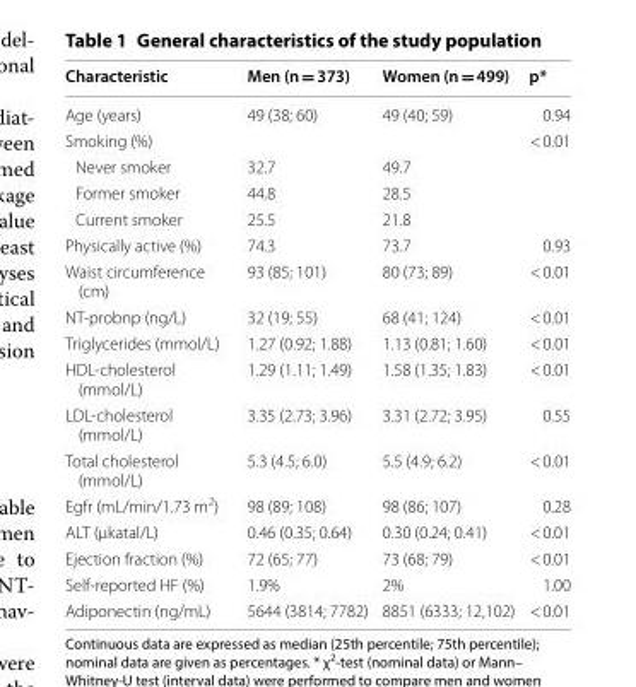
<table><thead><tr><td>Characteristic</td><td>Men (n = 373)</td><td>Women (n = 499)</td><td>p*</td></tr></thead><tbody><tr><td>Age (years)</td><td>49 (38; 60)</td><td>49 (40; 59)</td><td>0.94</td></tr><tr><td>Smoking (%)</td><td></td><td></td><td>&lt; 0.01</td></tr><tr><td>Never smoker</td><td>32.7</td><td>49.7</td><td></td></tr><tr><td>Former smoker</td><td>44.8</td><td>28.5</td><td></td></tr><tr><td>Current smoker</td><td>25.5</td><td>21.8</td><td></td></tr><tr><td>Physically active (%)</td><td>74.3</td><td>73.7</td><td>0.93</td></tr><tr><td>Waist circumference (cm)</td><td>93 (85; 101)</td><td>80 (73; 89)</td><td>&lt; 0.01</td></tr><tr><td>NT-probnp (ng/L)</td><td>32 (19; 55)</td><td>68 (41; 124)</td><td>&lt; 0.01</td></tr><tr><td>Triglycerides (mmol/L)</td><td>1.27 (0.92; 1.88)</td><td>1.13 (0.81; 1.60)</td><td>&lt; 0.01</td></tr><tr><td>HDL-cholesterol (mmol/L)</td><td>1.29 (1.11; 1.49)</td><td>1.58 (1.35; 1.83)</td><td>&lt; 0.01</td></tr><tr><td>LDL-cholesterol (mmol/L)</td><td>3.35 (2.73; 3.96)</td><td>3.31 (2.72; 3.95)</td><td>0.55</td></tr><tr><td>Total cholesterol (mmol/L)</td><td>5.3 (4.5; 6.0)</td><td>5.5 (4.9; 6.2)</td><td>&lt; 0.01</td></tr><tr><td>Egfr (mL/min/1.73 m<sup>2</sup>)</td><td>98 (89; 108)</td><td>98 (86; 107)</td><td>0.28</td></tr><tr><td>ALT (µkatal/L)</td><td>0.46 (0.35; 0.64)</td><td>0.30 (0.24; 0.41)</td><td>&lt; 0.01</td></tr><tr><td>Ejection fraction (%)</td><td>72 (65; 77)</td><td>73 (68; 79)</td><td>&lt; 0.01</td></tr><tr><td>Self-reported HF (%)</td><td>1.9%</td><td>2%</td><td>1.00</td></tr><tr><td>Adiponectin (ng/mL)</td><td>5644 (3814; 7782)</td><td>8851 (6333; 12,102)</td><td>&lt; 0.01</td></tr></tbody></table>